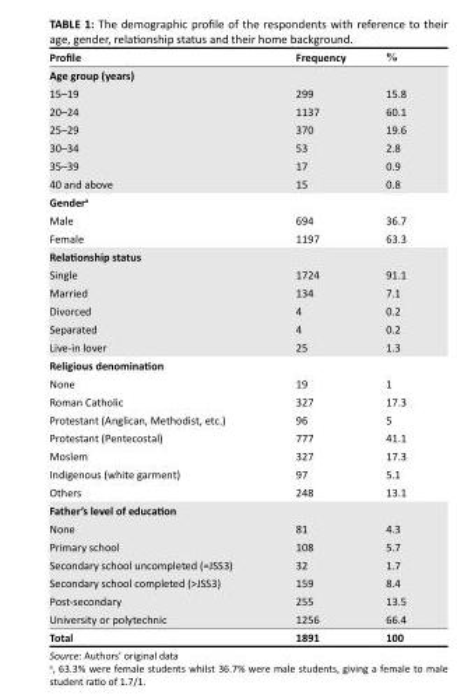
<table><thead><tr><td>Profile</td><td>Frequency</td><td>%</td></tr></thead><tbody><tr><td colspan="3">Age group (years)</td></tr><tr><td>15–19</td><td>299</td><td>15.8</td></tr><tr><td>20–24</td><td>1137</td><td>60.1</td></tr><tr><td>25–29</td><td>370</td><td>19.6</td></tr><tr><td>30–34</td><td>53</td><td>2.8</td></tr><tr><td>35–39</td><td>17</td><td>0.9</td></tr><tr><td>40 and above</td><td>15</td><td>0.8</td></tr><tr><td colspan="3">Gender<sup>a</sup></td></tr><tr><td>Male</td><td>694</td><td>36.7</td></tr><tr><td>Female</td><td>1197</td><td>63.3</td></tr><tr><td colspan="3">Relationship status</td></tr><tr><td>Single</td><td>1724</td><td>91.1</td></tr><tr><td>Married</td><td>134</td><td>7.1</td></tr><tr><td>Divorced</td><td>4</td><td>0.2</td></tr><tr><td>Separated</td><td>4</td><td>0.2</td></tr><tr><td>Live-in lover</td><td>25</td><td>1.3</td></tr><tr><td colspan="3">Religious denomination</td></tr><tr><td>None</td><td>19</td><td>1</td></tr><tr><td>Roman Catholic</td><td>327</td><td>17.3</td></tr><tr><td>Protestant (Anglican, Methodist, etc.)</td><td>96</td><td>5</td></tr><tr><td>Protestant (Pentecostal)</td><td>777</td><td>41.1</td></tr><tr><td>Moslem</td><td>327</td><td>17.3</td></tr><tr><td>Indigenous (white garment)</td><td>97</td><td>5.1</td></tr><tr><td>Others</td><td>248</td><td>13.1</td></tr><tr><td colspan="3">Father’s level of education</td></tr><tr><td>None</td><td>81</td><td>4.3</td></tr><tr><td>Primary school</td><td>108</td><td>5.7</td></tr><tr><td>Secondary school uncompleted (=JSS3)</td><td>32</td><td>1.7</td></tr><tr><td>Secondary school completed (&gt;JSS3)</td><td>159</td><td>8.4</td></tr><tr><td>Post-secondary</td><td>255</td><td>13.5</td></tr><tr><td>University or polytechnic</td><td>1256</td><td>66.4</td></tr><tr><td>Total</td><td>1891</td><td>100</td></tr></tbody></table>